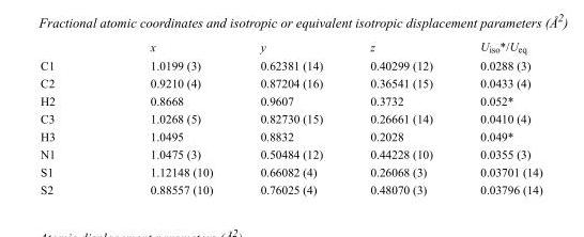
<table><thead><tr><td></td><td>x</td><td>y</td><td>z</td><td>U<sub>iso</sub>*/U<sub>eq</sub></td></tr></thead><tbody><tr><td>C1</td><td>1.0199 (3)</td><td>0.62381 (14)</td><td>0.40299 (12)</td><td>0.0288 (3)</td></tr><tr><td>C2</td><td>0.9210 (4)</td><td>0.87204 (16)</td><td>0.36541 (15)</td><td>0.0433 (4)</td></tr><tr><td>H2</td><td>0.8668</td><td>0.9607</td><td>0.3732</td><td>0.052*</td></tr><tr><td>C3</td><td>1.0268 (5)</td><td>0.82730 (15)</td><td>0.26661 (14)</td><td>0.0410 (4)</td></tr><tr><td>H3</td><td>1.0495</td><td>0.8832</td><td>0.2028</td><td>0.049*</td></tr><tr><td>N1</td><td>1.0475 (3)</td><td>0.50484 (12)</td><td>0.44228 (10)</td><td>0.0355 (3)</td></tr><tr><td>S1</td><td>1.12148 (10)</td><td>0.66082 (4)</td><td>0.26068 (3)</td><td>0.03701 (14)</td></tr><tr><td>S2</td><td>0.88557 (10)</td><td>0.76025 (4)</td><td>0.48070 (3)</td><td>0.03796 (14)</td></tr></tbody></table>